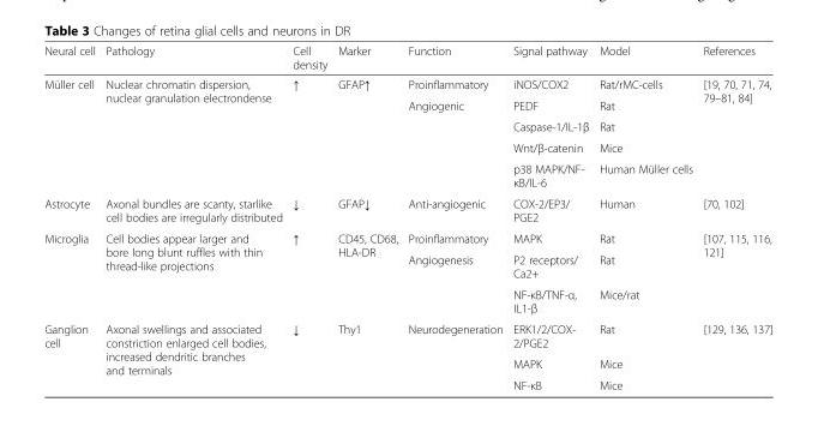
<table><thead><tr><td>Neural cell</td><td>Pathology</td><td>Cell density</td><td>Marker</td><td>Function</td><td>Signal pathway</td><td>Model</td><td>References</td></tr></thead><tbody><tr><td rowspan="5">Müller cell</td><td rowspan="5">Nuclear chromatin dispersion, nuclear granulation electrondense</td><td rowspan="5">↑</td><td rowspan="5">GFAP↑</td><td>Proinflammatory</td><td>iNOS/COX2</td><td>Rat/rMC-cells</td><td rowspan="5">[19, 70, 71, 74, 79–81, 84]</td></tr><tr><td rowspan="4">Angiogenic</td><td>PEDF</td><td>Rat</td></tr><tr><td>Caspase-1/IL-1β</td><td>Rat</td></tr><tr><td>Wnt/β-catenin</td><td>Mice</td></tr><tr><td>p38 MAPK/NF- κB/IL-6</td><td>Human Müller cells</td></tr><tr><td>Astrocyte</td><td>Axonal bundles are scanty, starlike cell bodies are irregularly distributed</td><td>↓</td><td>GFAP↓</td><td>Anti-angiogenic</td><td>COX-2/EP3/ PGE2</td><td>Human</td><td>[70, 102]</td></tr><tr><td rowspan="3">Microglia</td><td rowspan="3">Cell bodies appear larger and bore long blunt ruffles with thin thread-like projections</td><td rowspan="3">↑</td><td rowspan="3">CD45, CD68, HLA-DR</td><td>Proinflammatory</td><td>MAPK</td><td>Rat</td><td rowspan="3">[107, 115, 116, 121]</td></tr><tr><td rowspan="2">Angiogenesis</td><td>P2 receptors/ Ca2+</td><td>Rat</td></tr><tr><td>NF-κB/TNF-α, IL1-β</td><td>Mice/rat</td></tr><tr><td rowspan="3">Ganglion cell</td><td rowspan="3">Axonal swellings and associated constriction enlarged cell bodies, increased dendritic branches and terminals</td><td rowspan="3">↓</td><td rowspan="3">Thy1</td><td rowspan="3">Neurodegeneration</td><td>ERK1/2/COX- 2/PGE2</td><td>Rat</td><td rowspan="3">[129, 136, 137]</td></tr><tr><td>MAPK</td><td>Mice</td></tr><tr><td>NF-κB</td><td>Mice</td></tr></tbody></table>